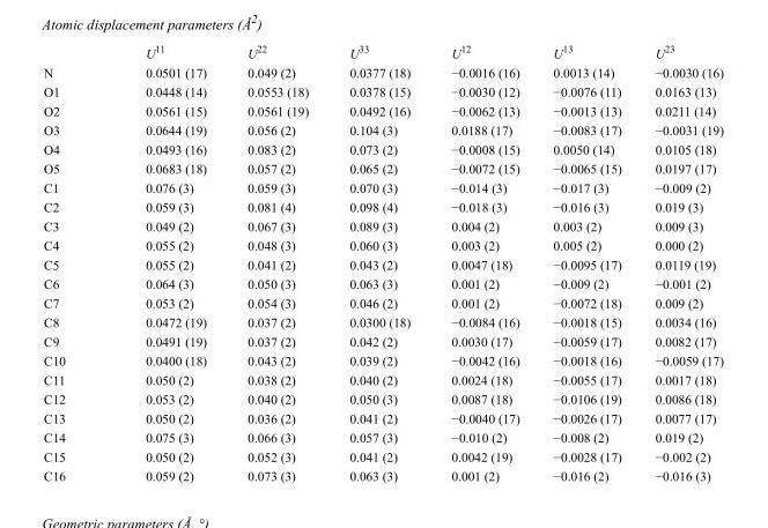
<table><thead><tr><td></td><td>U<sup>11</sup></td><td>U<sup>22</sup></td><td>U<sup>33</sup></td><td>U<sup>12</sup></td><td>U<sup>13</sup></td><td>U<sup>23</sup></td></tr></thead><tbody><tr><td>N</td><td>0.0501 (17)</td><td>0.049 (2)</td><td>0.0377 (18)</td><td>−0.0016 (16)</td><td>0.0013 (14)</td><td>−0.0030 (16)</td></tr><tr><td>O1</td><td>0.0448 (14)</td><td>0.0553 (18)</td><td>0.0378 (15)</td><td>−0.0030 (12)</td><td>−0.0076 (11)</td><td>0.0163 (13)</td></tr><tr><td>O2</td><td>0.0561 (15)</td><td>0.0561 (19)</td><td>0.0492 (16)</td><td>−0.0062 (13)</td><td>−0.0013 (13)</td><td>0.0211 (14)</td></tr><tr><td>O3</td><td>0.0644 (19)</td><td>0.056 (2)</td><td>0.104 (3)</td><td>0.0188 (17)</td><td>−0.0083 (17)</td><td>−0.0031 (19)</td></tr><tr><td>O4</td><td>0.0493 (16)</td><td>0.083 (2)</td><td>0.073 (2)</td><td>−0.0008 (15)</td><td>0.0050 (14)</td><td>0.0105 (18)</td></tr><tr><td>O5</td><td>0.0683 (18)</td><td>0.057 (2)</td><td>0.065 (2)</td><td>−0.0072 (15)</td><td>−0.0065 (15)</td><td>0.0197 (17)</td></tr><tr><td>C1</td><td>0.076 (3)</td><td>0.059 (3)</td><td>0.070 (3)</td><td>−0.014 (3)</td><td>−0.017 (3)</td><td>−0.009 (2)</td></tr><tr><td>C2</td><td>0.059 (3)</td><td>0.081 (4)</td><td>0.098 (4)</td><td>−0.018 (3)</td><td>−0.016 (3)</td><td>0.019 (3)</td></tr><tr><td>C3</td><td>0.049 (2)</td><td>0.067 (3)</td><td>0.089 (3)</td><td>0.004 (2)</td><td>0.003 (2)</td><td>0.009 (3)</td></tr><tr><td>C4</td><td>0.055 (2)</td><td>0.048 (3)</td><td>0.060 (3)</td><td>0.003 (2)</td><td>0.005 (2)</td><td>0.000 (2)</td></tr><tr><td>C5</td><td>0.055 (2)</td><td>0.041 (2)</td><td>0.043 (2)</td><td>0.0047 (18)</td><td>−0.0095 (17)</td><td>0.0119 (19)</td></tr><tr><td>C6</td><td>0.064 (3)</td><td>0.050 (3)</td><td>0.063 (3)</td><td>0.001 (2)</td><td>−0.009 (2)</td><td>−0.001 (2)</td></tr><tr><td>C7</td><td>0.053 (2)</td><td>0.054 (3)</td><td>0.046 (2)</td><td>0.001 (2)</td><td>−0.0072 (18)</td><td>0.009 (2)</td></tr><tr><td>C8</td><td>0.0472 (19)</td><td>0.037 (2)</td><td>0.0300 (18)</td><td>−0.0084 (16)</td><td>−0.0018 (15)</td><td>0.0034 (16)</td></tr><tr><td>C9</td><td>0.0491 (19)</td><td>0.037 (2)</td><td>0.042 (2)</td><td>0.0030 (17)</td><td>−0.0059 (17)</td><td>0.0082 (17)</td></tr><tr><td>C10</td><td>0.0400 (18)</td><td>0.043 (2)</td><td>0.039 (2)</td><td>−0.0042 (16)</td><td>−0.0018 (16)</td><td>−0.0059 (17)</td></tr><tr><td>C11</td><td>0.050 (2)</td><td>0.038 (2)</td><td>0.040 (2)</td><td>0.0024 (18)</td><td>−0.0055 (17)</td><td>0.0017 (18)</td></tr><tr><td>C12</td><td>0.053 (2)</td><td>0.040 (2)</td><td>0.050 (3)</td><td>0.0087 (18)</td><td>−0.0106 (19)</td><td>0.0086 (18)</td></tr><tr><td>C13</td><td>0.050 (2)</td><td>0.036 (2)</td><td>0.041 (2)</td><td>−0.0040 (17)</td><td>−0.0026 (17)</td><td>0.0077 (17)</td></tr><tr><td>C14</td><td>0.075 (3)</td><td>0.066 (3)</td><td>0.057 (3)</td><td>−0.010 (2)</td><td>−0.008 (2)</td><td>0.019 (2)</td></tr><tr><td>C15</td><td>0.050 (2)</td><td>0.052 (3)</td><td>0.041 (2)</td><td>0.0042 (19)</td><td>−0.0028 (17)</td><td>−0.002 (2)</td></tr><tr><td>C16</td><td>0.059 (2)</td><td>0.073 (3)</td><td>0.063 (3)</td><td>0.001 (2)</td><td>−0.016 (2)</td><td>−0.016 (3)</td></tr></tbody></table>